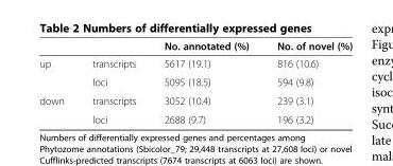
<table><thead><tr><td></td><td></td><td>No. annotated (%)</td><td>No. of novel (%)</td></tr></thead><tbody><tr><td rowspan="2">up</td><td>transcripts</td><td>5617 (19.1)</td><td>816 (10.6)</td></tr><tr><td>loci</td><td>5095 (18.5)</td><td>594 (9.8)</td></tr><tr><td rowspan="2">down</td><td>transcripts</td><td>3052 (10.4)</td><td>239 (3.1)</td></tr><tr><td>loci</td><td>2688 (9.7)</td><td>196 (3.2)</td></tr></tbody></table>